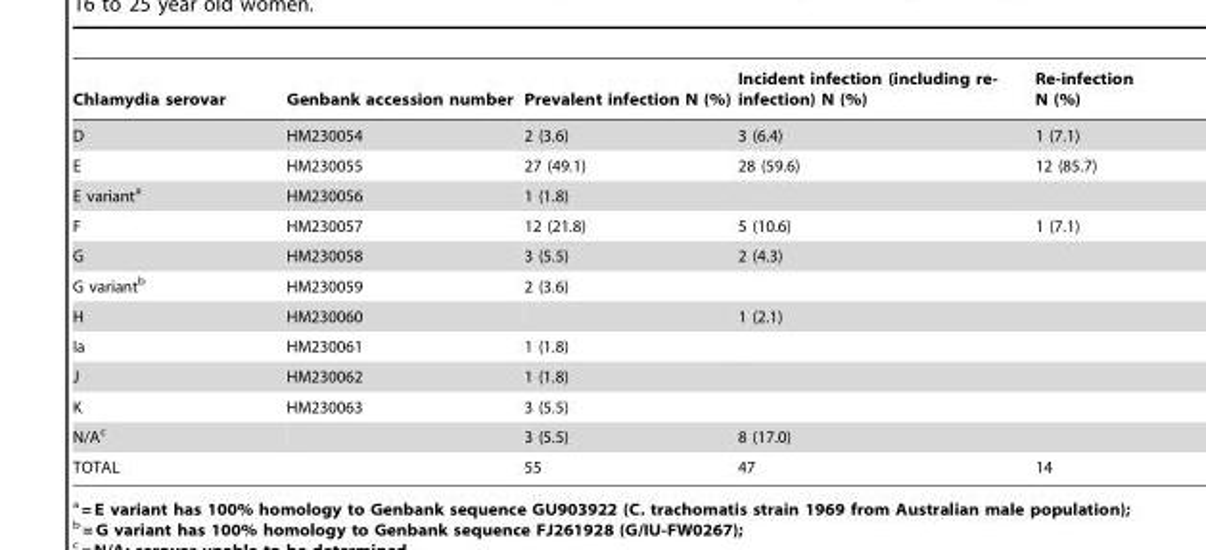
<table><thead><tr><td>Chlamydia serovar</td><td>Genbank accession number</td><td>Prevalent infection N (%)</td><td>Incident infection (including re- infection) N (%)</td><td>Re-infection N (%)</td></tr></thead><tbody><tr><td>D</td><td>HM230054</td><td>2 (3.6)</td><td>3 (6.4)</td><td>1 (7.1)</td></tr><tr><td>E</td><td>HM230055</td><td>27 (49.1)</td><td>28 (59.6)</td><td>12 (85.7)</td></tr><tr><td>E variant<sup>a</sup></td><td>HM230056</td><td>1 (1.8)</td><td></td><td></td></tr><tr><td>F</td><td>HM230057</td><td>12 (21.8)</td><td>5 (10.6)</td><td>1 (7.1)</td></tr><tr><td>G</td><td>HM230058</td><td>3 (5.5)</td><td>2 (4.3)</td><td></td></tr><tr><td>G variant<sup>b</sup></td><td>HM230059</td><td>2 (3.6)</td><td></td><td></td></tr><tr><td>H</td><td>HM230060</td><td></td><td>1 (2.1)</td><td></td></tr><tr><td>Ia</td><td>HM230061</td><td>1 (1.8)</td><td></td><td></td></tr><tr><td>J</td><td>HM230062</td><td>1 (1.8)</td><td></td><td></td></tr><tr><td>K</td><td>HM230063</td><td>3 (5.5)</td><td></td><td></td></tr><tr><td>N/A<sup>c</sup></td><td></td><td>3 (5.5)</td><td>8 (17.0)</td><td></td></tr><tr><td>TOTAL</td><td></td><td>55</td><td>47</td><td>14</td></tr></tbody></table>